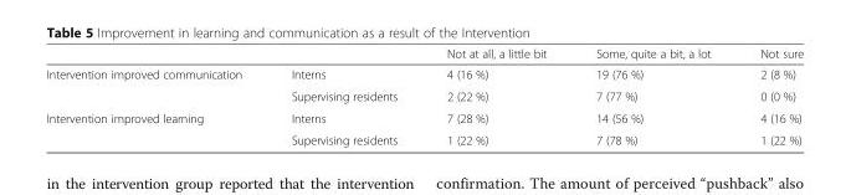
<table><thead><tr><td></td><td></td><td>Not at all, a little bit</td><td>Some, quite a bit, a lot</td><td>Not sure</td></tr></thead><tbody><tr><td rowspan="2">Intervention improved communication</td><td>Interns</td><td>4 (16 %)</td><td>19 (76 %)</td><td>2 (8 %)</td></tr><tr><td>Supervising residents</td><td>2 (22 %)</td><td>7 (77 %)</td><td>0 (0 %)</td></tr><tr><td rowspan="2">Intervention improved learning</td><td>Interns</td><td>7 (28 %)</td><td>14 (56 %)</td><td>4 (16 %)</td></tr><tr><td>Supervising residents</td><td>1 (22 %)</td><td>7 (78 %)</td><td>1 (22 %)</td></tr></tbody></table>